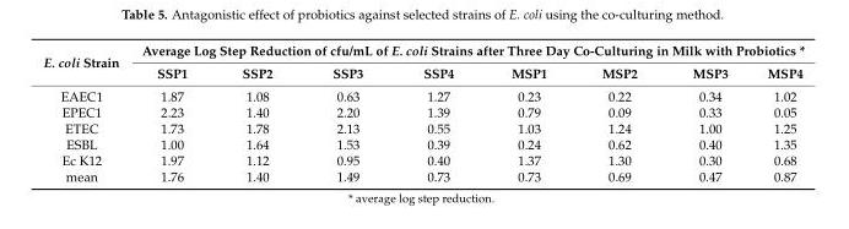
<table><thead><tr><td rowspan="2">E. coli Strain</td><td colspan="8">Average Log Step Reduction of cfu/mL of E. coli Strains after Three Day Co-Culturing in Milk with Probiotics *</td></tr><tr><td>SSP1</td><td>SSP2</td><td>SSP3</td><td>SSP4</td><td>MSP1</td><td>MSP2</td><td>MSP3</td><td>MSP4</td></tr></thead><tbody><tr><td>EAEC1</td><td>1.87</td><td>1.08</td><td>0.63</td><td>1.27</td><td>0.23</td><td>0.22</td><td>0.34</td><td>1.02</td></tr><tr><td>EPEC1</td><td>2.23</td><td>1.40</td><td>2.20</td><td>1.39</td><td>0.79</td><td>0.09</td><td>0.33</td><td>0.05</td></tr><tr><td>ETEC</td><td>1.73</td><td>1.78</td><td>2.13</td><td>0.55</td><td>1.03</td><td>1.24</td><td>1.00</td><td>1.25</td></tr><tr><td>ESBL</td><td>1.00</td><td>1.64</td><td>1.53</td><td>0.39</td><td>0.24</td><td>0.62</td><td>0.40</td><td>1.35</td></tr><tr><td>Ec K12</td><td>1.97</td><td>1.12</td><td>0.95</td><td>0.40</td><td>1.37</td><td>1.30</td><td>0.30</td><td>0.68</td></tr><tr><td>mean</td><td>1.76</td><td>1.40</td><td>1.49</td><td>0.73</td><td>0.73</td><td>0.69</td><td>0.47</td><td>0.87</td></tr></tbody></table>